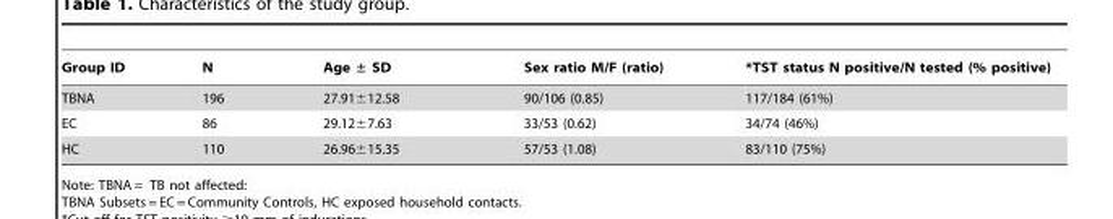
<table><thead><tr><td>Group ID</td><td>N</td><td>Age ± SD</td><td>Sex ratio M/F (ratio)</td><td>*TST status N positive/N tested (% positive)</td></tr></thead><tbody><tr><td>TBNA</td><td>196</td><td>27.91±12.58</td><td>90/106 (0.85)</td><td>117/184 (61%)</td></tr><tr><td>EC</td><td>86</td><td>29.12±7.63</td><td>33/53 (0.62)</td><td>34/74 (46%)</td></tr><tr><td>HC</td><td>110</td><td>26.96±15.35</td><td>57/53 (1.08)</td><td>83/110 (75%)</td></tr></tbody></table>